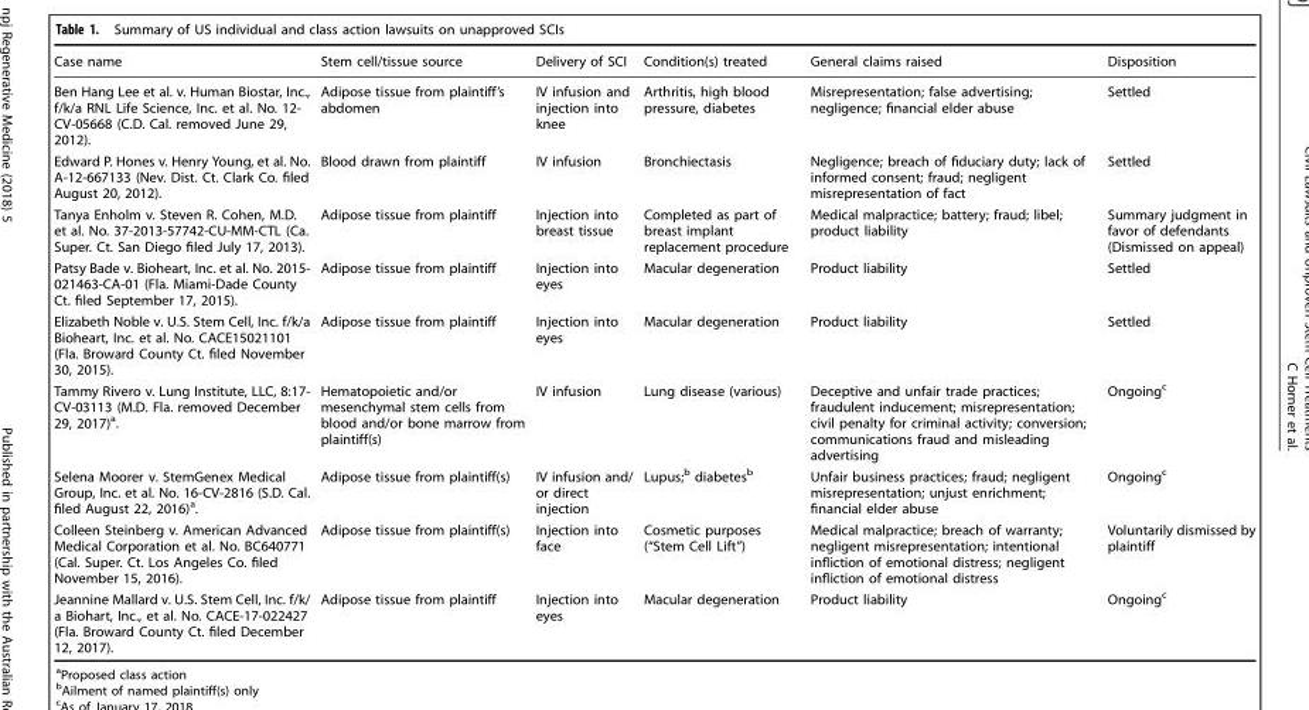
<table><thead><tr><td>Case name</td><td>Stem cell/tissue source</td><td>Delivery of SCI</td><td>Condition(s) treated</td><td>General claims raised</td><td>Disposition</td></tr></thead><tbody><tr><td>Ben Hang Lee et al. v. Human Biostar, Inc., f/k/a RNL Life Science, Inc. et al. No. 12- CV-05668 (C.D. Cal. removed June 29, 2012).</td><td>Adipose tissue from plaintiff’s abdomen</td><td>IV infusion and injection into knee</td><td>Arthritis, high blood pressure, diabetes</td><td>Misrepresentation; false advertising; negligence; financial elder abuse</td><td>Settled</td></tr><tr><td>Edward P. Hones v. Henry Young, et al. No. A-12-667133 (Nev. Dist. Ct. Clark Co. filed August 20, 2012).</td><td>Blood drawn from plaintiff</td><td>IV infusion</td><td>Bronchiectasis</td><td>Negligence; breach of fiduciary duty; lack of informed consent; fraud; negligent misrepresentation of fact</td><td>Settled</td></tr><tr><td>Tanya Enholm v. Steven R. Cohen, M.D. et al. No. 37-2013-57742-CU-MM-CTL (Ca. Super. Ct. San Diego filed July 17, 2013).</td><td>Adipose tissue from plaintiff</td><td>Injection into breast tissue</td><td>Completed as part of breast implant replacement procedure</td><td>Medical malpractice; battery; fraud; libel; product liability</td><td>Summary judgment in favor of defendants (Dismissed on appeal)</td></tr><tr><td>Patsy Bade v. Bioheart, Inc. et al. No. 2015- 021463-CA-01 (Fla. Miami-Dade County Ct. filed September 17, 2015).</td><td>Adipose tissue from plaintiff</td><td>Injection into eyes</td><td>Macular degeneration</td><td>Product liability</td><td>Settled</td></tr><tr><td>Elizabeth Noble v. U.S. Stem Cell, Inc. f/k/a Bioheart, Inc. et al. No. CACE15021101 (Fla. Broward County Ct. filed November 30, 2015).</td><td>Adipose tissue from plaintiff</td><td>Injection into eyes</td><td>Macular degeneration</td><td>Product liability</td><td>Settled</td></tr><tr><td>Tammy Rivero v. Lung Institute, LLC, 8:17- CV-03113 (M.D. Fla. removed December 29, 2017)<sup>a</sup>.</td><td>Hematopoietic and/or mesenchymal stem cells from blood and/or bone marrow from plaintiff(s)</td><td>IV infusion</td><td>Lung disease (various)</td><td>Deceptive and unfair trade practices; fraudulent inducement; misrepresentation; civil penalty for criminal activity; conversion; communications fraud and misleading advertising</td><td>Ongoing<sup>c</sup></td></tr><tr><td>Selena Moorer v. StemGenex Medical Group, Inc. et al. No. 16-CV-2816 (S.D. Cal. filed August 22, 2016)<sup>a</sup>.</td><td>Adipose tissue from plaintiff(s)</td><td>IV infusion and/ or direct injection</td><td>Lupus;<sup>b</sup> diabetes<sup>b</sup></td><td>Unfair business practices; fraud; negligent misrepresentation; unjust enrichment; financial elder abuse</td><td>Ongoing<sup>c</sup></td></tr><tr><td>Colleen Steinberg v. American Advanced Medical Corporation et al. No. BC640771 (Cal. Super. Ct. Los Angeles Co. filed November 15, 2016).</td><td>Adipose tissue from plaintiff(s)</td><td>Injection into face</td><td>Cosmetic purposes (“Stem Cell Lift”)</td><td>Medical malpractice; breach of warranty; negligent misrepresentation; intentional infliction of emotional distress; negligent infliction of emotional distress</td><td>Voluntarily dismissed by plaintiff</td></tr><tr><td>Jeannine Mallard v. U.S. Stem Cell, Inc. f/k/ a Biohart, Inc., et al. No. CACE-17-022427 (Fla. Broward County Ct. filed December 12, 2017).</td><td>Adipose tissue from plaintiff</td><td>Injection into eyes</td><td>Macular degeneration</td><td>Product liability</td><td>Ongoing<sup>c</sup></td></tr></tbody></table>